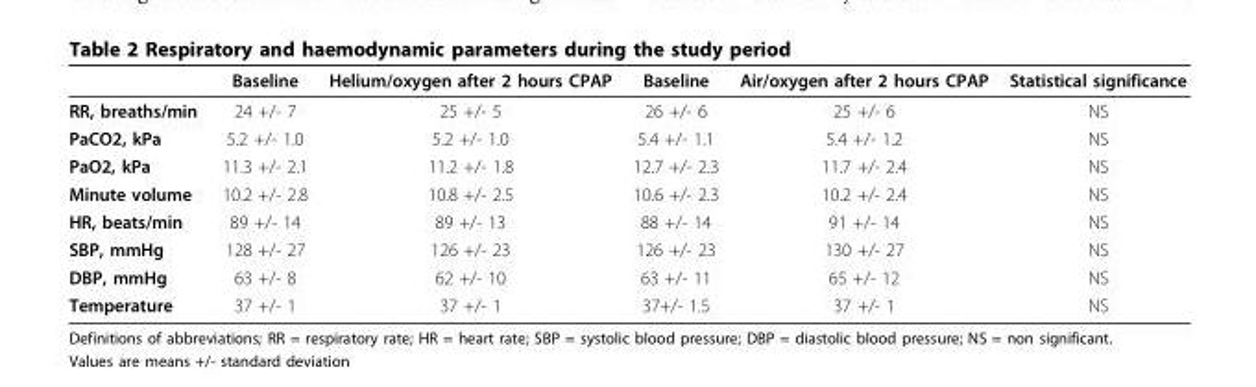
<table><thead><tr><td></td><td>Baseline</td><td>Helium/oxygen after 2 hours CPAP</td><td>Baseline</td><td>Air/oxygen after 2 hours CPAP</td><td>Statistical significance</td></tr></thead><tbody><tr><td>RR, breaths/min</td><td>24 +/- 7</td><td>25 +/- 5</td><td>26 +/- 6</td><td>25 +/- 6</td><td>NS</td></tr><tr><td>PaCO2, kPa</td><td>5.2 +/- 1.0</td><td>5.2 +/- 1.0</td><td>5.4 +/- 1.1</td><td>5.4 +/- 1.2</td><td>NS</td></tr><tr><td>PaO2, kPa</td><td>11.3 +/- 2.1</td><td>11.2 +/- 1.8</td><td>12.7 +/- 2.3</td><td>11.7 +/- 2.4</td><td>NS</td></tr><tr><td>Minute volume</td><td>10.2 +/- 2.8</td><td>10.8 +/- 2.5</td><td>10.6 +/- 2.3</td><td>10.2 +/- 2.4</td><td>NS</td></tr><tr><td>HR, beats/min</td><td>89 +/- 14</td><td>89 +/- 13</td><td>88 +/- 14</td><td>91 +/- 14</td><td>NS</td></tr><tr><td>SBP, mmHg</td><td>128 +/- 27</td><td>126 +/- 23</td><td>126 +/- 23</td><td>130 +/- 27</td><td>NS</td></tr><tr><td>DBP, mmHg</td><td>63 +/- 8</td><td>62 +/- 10</td><td>63 +/- 11</td><td>65 +/- 12</td><td>NS</td></tr><tr><td>Temperature</td><td>37 +/- 1</td><td>37 +/- 1</td><td>37+/- 1.5</td><td>37 +/- 1</td><td>NS</td></tr></tbody></table>